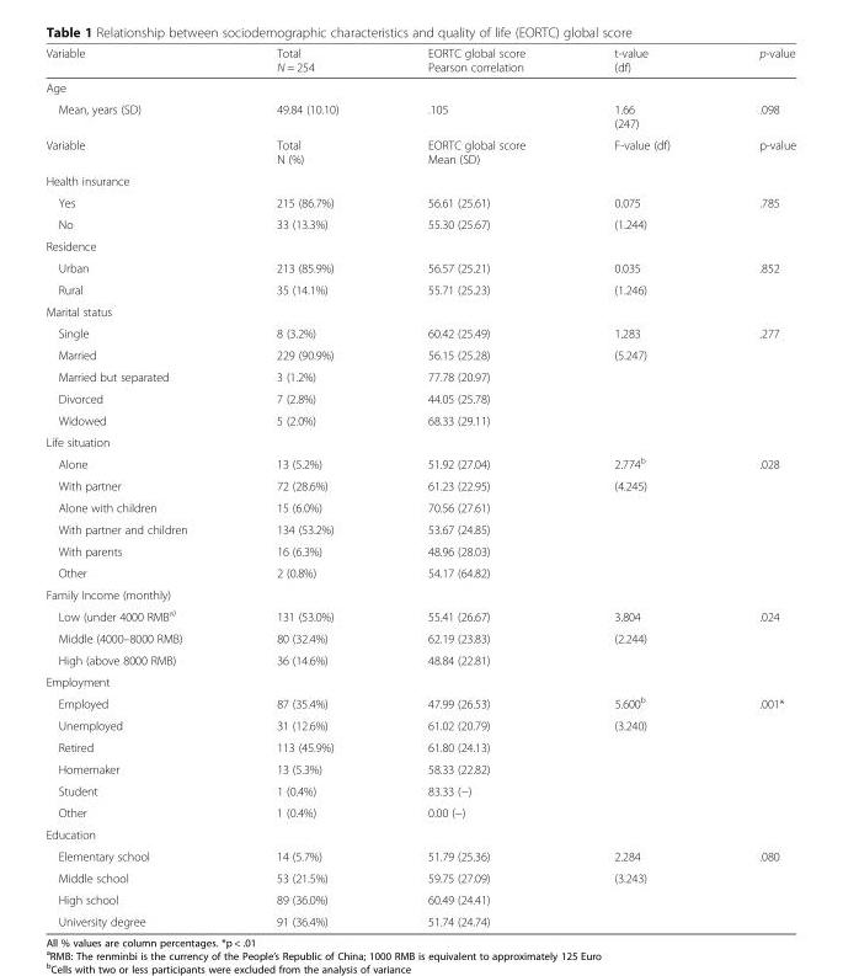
<table><thead><tr><td>Variable</td><td>Total N = 254</td><td>EORTC global score Pearson correlation</td><td>t-value (df)</td><td>p-value</td></tr></thead><tbody><tr><td colspan="5">Age</td></tr><tr><td>Mean, years (SD)</td><td>49.84 (10.10)</td><td>.105</td><td>1.66 (247)</td><td>.098</td></tr><tr><td>Variable</td><td>Total N (%)</td><td>EORTC global score Mean (SD)</td><td>F-value (df)</td><td>p-value</td></tr><tr><td colspan="5">Health insurance</td></tr><tr><td>Yes</td><td>215 (86.7%)</td><td>56.61 (25.61)</td><td>0.075</td><td>.785</td></tr><tr><td>No</td><td>33 (13.3%)</td><td>55.30 (25.67)</td><td>(1.244)</td><td></td></tr><tr><td colspan="5">Residence</td></tr><tr><td>Urban</td><td>213 (85.9%)</td><td>56.57 (25.21)</td><td>0.035</td><td>.852</td></tr><tr><td>Rural</td><td>35 (14.1%)</td><td>55.71 (25.23)</td><td>(1.246)</td><td></td></tr><tr><td colspan="5">Marital status</td></tr><tr><td>Single</td><td>8 (3.2%)</td><td>60.42 (25.49)</td><td>1.283</td><td>.277</td></tr><tr><td>Married</td><td>229 (90.9%)</td><td>56.15 (25.28)</td><td>(5.247)</td><td></td></tr><tr><td>Married but separated</td><td>3 (1.2%)</td><td>77.78 (20.97)</td><td></td><td></td></tr><tr><td>Divorced</td><td>7 (2.8%)</td><td>44.05 (25.78)</td><td></td><td></td></tr><tr><td>Widowed</td><td>5 (2.0%)</td><td>68.33 (29.11)</td><td></td><td></td></tr><tr><td colspan="5">Life situation</td></tr><tr><td>Alone</td><td>13 (5.2%)</td><td>51.92 (27.04)</td><td>2.774<sup>b</sup></td><td>.028</td></tr><tr><td>With partner</td><td>72 (28.6%)</td><td>61.23 (22.95)</td><td>(4.245)</td><td></td></tr><tr><td>Alone with children</td><td>15 (6.0%)</td><td>70.56 (27.61)</td><td></td><td></td></tr><tr><td>With partner and children</td><td>134 (53.2%)</td><td>53.67 (24.85)</td><td></td><td></td></tr><tr><td>With parents</td><td>16 (6.3%)</td><td>48.96 (28.03)</td><td></td><td></td></tr><tr><td>Other</td><td>2 (0.8%)</td><td>54.17 (64.82)</td><td></td><td></td></tr><tr><td colspan="5">Family Income (monthly)</td></tr><tr><td>Low (under 4000 RMB<sup>a)</sup></td><td>131 (53.0%)</td><td>55.41 (26.67)</td><td>3.804</td><td>.024</td></tr><tr><td>Middle (4000–8000 RMB)</td><td>80 (32.4%)</td><td>62.19 (23.83)</td><td>(2.244)</td><td></td></tr><tr><td>High (above 8000 RMB)</td><td>36 (14.6%)</td><td>48.84 (22.81)</td><td></td><td></td></tr><tr><td colspan="5">Employment</td></tr><tr><td>Employed</td><td>87 (35.4%)</td><td>47.99 (26.53)</td><td>5.600<sup>b</sup></td><td>.001*</td></tr><tr><td>Unemployed</td><td>31 (12.6%)</td><td>61.02 (20.79)</td><td>(3.240)</td><td></td></tr><tr><td>Retired</td><td>113 (45.9%)</td><td>61.80 (24.13)</td><td></td><td></td></tr><tr><td>Homemaker</td><td>13 (5.3%)</td><td>58.33 (22.82)</td><td></td><td></td></tr><tr><td>Student</td><td>1 (0.4%)</td><td>83.33 (−)</td><td></td><td></td></tr><tr><td>Other</td><td>1 (0.4%)</td><td>0.00 (−)</td><td></td><td></td></tr><tr><td colspan="5">Education</td></tr><tr><td>Elementary school</td><td>14 (5.7%)</td><td>51.79 (25.36)</td><td>2.284</td><td>.080</td></tr><tr><td>Middle school</td><td>53 (21.5%)</td><td>59.75 (27.09)</td><td>(3.243)</td><td></td></tr><tr><td>High school</td><td>89 (36.0%)</td><td>60.49 (24.41)</td><td></td><td></td></tr><tr><td>University degree</td><td>91 (36.4%)</td><td>51.74 (24.74)</td><td></td><td></td></tr></tbody></table>